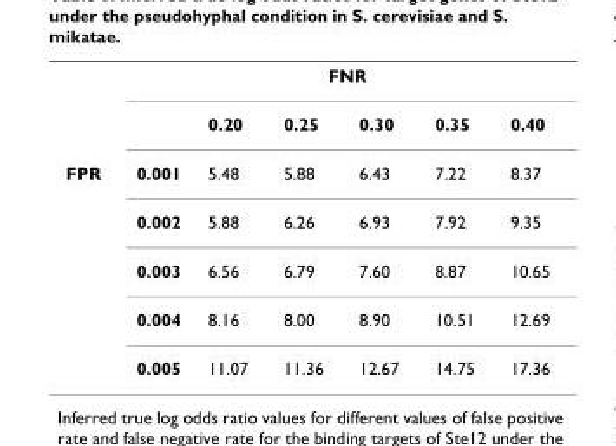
<table><thead><tr><td rowspan="2"></td><td colspan="6">FNR</td></tr><tr><td></td><td>0.20</td><td>0.25</td><td>0.30</td><td>0.35</td><td>0.40</td></tr></thead><tbody><tr><td rowspan="5">FPR</td><td>0.001</td><td>5.48</td><td>5.88</td><td>6.43</td><td>7.22</td><td>8.37</td></tr><tr><td>0.002</td><td>5.88</td><td>6.26</td><td>6.93</td><td>7.92</td><td>9.35</td></tr><tr><td>0.003</td><td>6.56</td><td>6.79</td><td>7.60</td><td>8.87</td><td>10.65</td></tr><tr><td>0.004</td><td>8.16</td><td>8.00</td><td>8.90</td><td>10.51</td><td>12.69</td></tr><tr><td>0.005</td><td>11.07</td><td>11.36</td><td>12.67</td><td>14.75</td><td>17.36</td></tr></tbody></table>